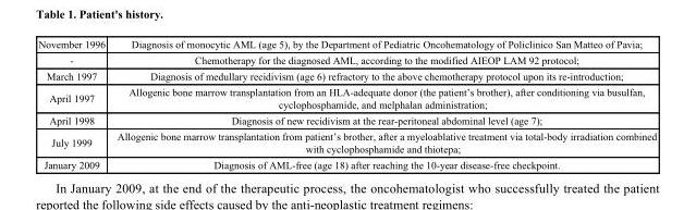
<table><tbody><tr><td>November 1996</td><td>Diagnosis of monocytic AML (age 5), by the Department of Pediatric Oncohematology of Policlinico San Matteo of Pavia;</td></tr><tr><td>-</td><td>Chemotherapy for the diagnosed AML, according to the modified AIEOP LAM 92 protocol;</td></tr><tr><td>March 1997</td><td>Diagnosis of medullary recidivism (age 6) refractory to the above chemotherapy protocol upon its re-introduction;</td></tr><tr><td>April 1997</td><td>Allogenic bone marrow transplantation from an HLA-adequate donor (the patient’s brother), after conditioning via busulfan, cyclophosphamide, and melphalan administration;</td></tr><tr><td>April 1998</td><td>Diagnosis of new recidivism at the rear-peritoneal abdominal level (age 7);</td></tr><tr><td>July 1999</td><td>Allogenic bone marrow transplantation from patient’s brother, after a myeloablative treatment via total-body irradiation combined with cyclophosphamide and thiotepa;</td></tr><tr><td>January 2009</td><td>Diagnosis of AML-free (age 18) after reaching the 10-year disease-free checkpoint.</td></tr></tbody></table>